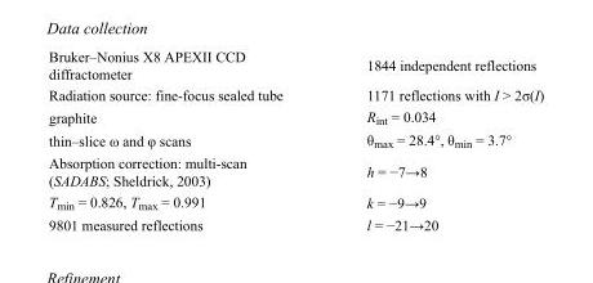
<table><tbody><tr><td>Bruker–Nonius X8 APEXII CCD diffractometer</td><td>1844 independent reflections</td></tr><tr><td>Radiation source: fine-focus sealed tube</td><td>1171 reflections with I &gt; 2σ(I)</td></tr><tr><td>graphite</td><td>R<sub>int</sub> = 0.034</td></tr><tr><td>thin–slice ω and φ scans</td><td>θ<sub>max</sub> = 28.4°, θ<sub>min</sub> = 3.7°</td></tr><tr><td>Absorption correction: multi-scan (SADABS; Sheldrick, 2003)</td><td>h = −7→8</td></tr><tr><td>T<sub>min</sub> = 0.826, T<sub>max</sub> = 0.991</td><td>k = −9→9</td></tr><tr><td>9801 measured reflections</td><td>l = −21→20</td></tr></tbody></table>